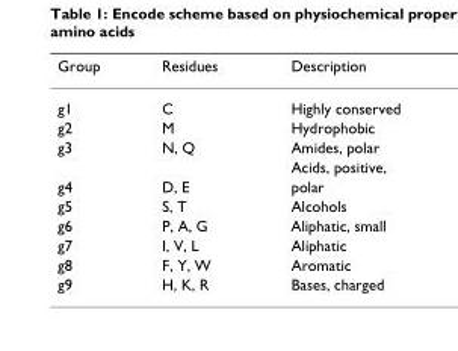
<table><thead><tr><td>Group</td><td>Residues</td><td>Description</td></tr></thead><tbody><tr><td>g1</td><td>C</td><td>Highly conserved</td></tr><tr><td>g2</td><td>M</td><td>Hydrophobic</td></tr><tr><td rowspan="2">g3</td><td>N, Q</td><td>Amides, polar</td></tr><tr><td></td><td>Acids, positive,</td></tr><tr><td>g4</td><td>D, E</td><td>polar</td></tr><tr><td>g5</td><td>S, T</td><td>Alcohols</td></tr><tr><td>g6</td><td>P, A, G</td><td>Aliphatic, small</td></tr><tr><td>g7</td><td>I, V, L</td><td>Aliphatic</td></tr><tr><td>g8</td><td>F, Y, W</td><td>Aromatic</td></tr><tr><td>g9</td><td>H, K, R</td><td>Bases, charged</td></tr></tbody></table>